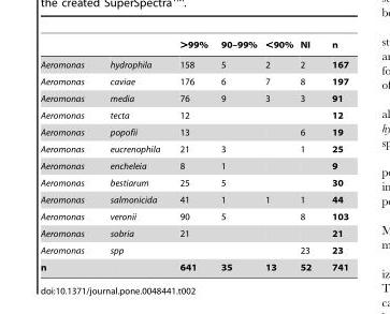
<table><thead><tr><td></td><td></td><td>&gt;99%</td><td>90–99%</td><td>&lt;90%</td><td>NI</td><td>n</td></tr></thead><tbody><tr><td>Aeromonas</td><td>hydrophila</td><td>158</td><td>5</td><td>2</td><td>2</td><td>167</td></tr><tr><td>Aeromonas</td><td>caviae</td><td>176</td><td>6</td><td>7</td><td>8</td><td>197</td></tr><tr><td>Aeromonas</td><td>media</td><td>76</td><td>9</td><td>3</td><td>3</td><td>91</td></tr><tr><td>Aeromonas</td><td>tecta</td><td>12</td><td></td><td></td><td></td><td>12</td></tr><tr><td>Aeromonas</td><td>popofii</td><td>13</td><td></td><td></td><td>6</td><td>19</td></tr><tr><td>Aeromonas</td><td>eucrenophila</td><td>21</td><td>3</td><td></td><td>1</td><td>25</td></tr><tr><td>Aeromonas</td><td>encheleia</td><td>8</td><td>1</td><td></td><td></td><td>9</td></tr><tr><td>Aeromonas</td><td>bestiarum</td><td>25</td><td>5</td><td></td><td></td><td>30</td></tr><tr><td>Aeromonas</td><td>salmonicida</td><td>41</td><td>1</td><td>1</td><td>1</td><td>44</td></tr><tr><td>Aeromonas</td><td>veronii</td><td>90</td><td>5</td><td></td><td>8</td><td>103</td></tr><tr><td>Aeromonas</td><td>sobria</td><td>21</td><td></td><td></td><td></td><td>21</td></tr><tr><td>Aeromonas</td><td>spp</td><td></td><td></td><td></td><td>23</td><td>23</td></tr><tr><td>n</td><td></td><td>641</td><td>35</td><td>13</td><td>52</td><td>741</td></tr></tbody></table>